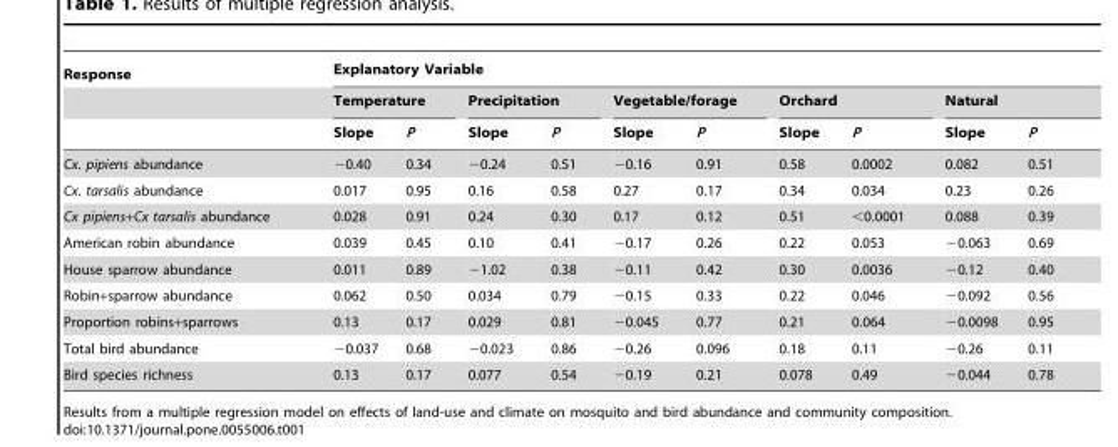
<table><thead><tr><td rowspan="3">Response</td><td colspan="10">Explanatory Variable</td></tr><tr><td colspan="2">Temperature</td><td colspan="2">Precipitation</td><td colspan="2">Vegetable/forage</td><td colspan="2">Orchard</td><td colspan="2">Natural</td></tr><tr><td>Slope</td><td>P</td><td>Slope</td><td>P</td><td>Slope</td><td>P</td><td>Slope</td><td>P</td><td>Slope</td><td>P</td></tr></thead><tbody><tr><td>Cx. pipiens abundance</td><td>−0.40</td><td>0.34</td><td>−0.24</td><td>0.51</td><td>−0.16</td><td>0.91</td><td>0.58</td><td>0.0002</td><td>0.082</td><td>0.51</td></tr><tr><td>Cx. tarsalis abundance</td><td>0.017</td><td>0.95</td><td>0.16</td><td>0.58</td><td>0.27</td><td>0.17</td><td>0.34</td><td>0.034</td><td>0.23</td><td>0.26</td></tr><tr><td>Cx pipiens+Cx tarsalis abundance</td><td>0.028</td><td>0.91</td><td>0.24</td><td>0.30</td><td>0.17</td><td>0.12</td><td>0.51</td><td>&lt;0.0001</td><td>0.088</td><td>0.39</td></tr><tr><td>American robin abundance</td><td>0.039</td><td>0.45</td><td>0.10</td><td>0.41</td><td>−0.17</td><td>0.26</td><td>0.22</td><td>0.053</td><td>−0.063</td><td>0.69</td></tr><tr><td>House sparrow abundance</td><td>0.011</td><td>0.89</td><td>−1.02</td><td>0.38</td><td>−0.11</td><td>0.42</td><td>0.30</td><td>0.0036</td><td>−0.12</td><td>0.40</td></tr><tr><td>Robin+sparrow abundance</td><td>0.062</td><td>0.50</td><td>0.034</td><td>0.79</td><td>−0.15</td><td>0.33</td><td>0.22</td><td>0.046</td><td>−0.092</td><td>0.56</td></tr><tr><td>Proportion robins+sparrows</td><td>0.13</td><td>0.17</td><td>0.029</td><td>0.81</td><td>−0.045</td><td>0.77</td><td>0.21</td><td>0.064</td><td>−0.0098</td><td>0.95</td></tr><tr><td>Total bird abundance</td><td>−0.037</td><td>0.68</td><td>−0.023</td><td>0.86</td><td>−0.26</td><td>0.096</td><td>0.18</td><td>0.11</td><td>−0.26</td><td>0.11</td></tr><tr><td>Bird species richness</td><td>0.13</td><td>0.17</td><td>0.077</td><td>0.54</td><td>−0.19</td><td>0.21</td><td>0.078</td><td>0.49</td><td>−0.044</td><td>0.78</td></tr></tbody></table>